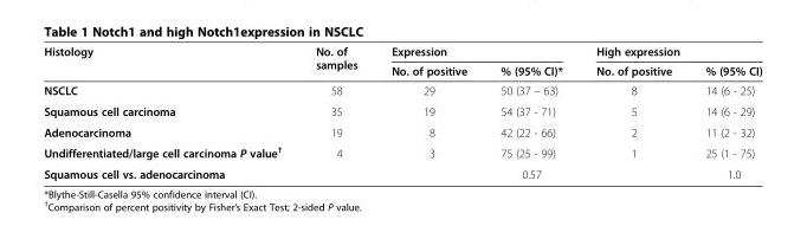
<table><thead><tr><td rowspan="2">Histology</td><td rowspan="2">No. of samples</td><td colspan="2">Expression</td><td colspan="2">High expression</td></tr><tr><td>No. of positive</td><td>% (95% CI)*</td><td>No. of positive</td><td>% (95% CI)</td></tr></thead><tbody><tr><td>NSCLC</td><td>58</td><td>29</td><td>50 (37 – 63)</td><td>8</td><td>14 (6 - 25)</td></tr><tr><td>Squamous cell carcinoma</td><td>35</td><td>19</td><td>54 (37 - 71)</td><td>5</td><td>14 (6 - 29)</td></tr><tr><td>Adenocarcinoma</td><td>19</td><td>8</td><td>42 (22 - 66)</td><td>2</td><td>11 (2 - 32)</td></tr><tr><td>Undifferentiated/large cell carcinoma P value<sup>†</sup></td><td>4</td><td>3</td><td>75 (25 - 99)</td><td>1</td><td>25 (1 - 75)</td></tr><tr><td>Squamous cell vs. adenocarcinoma</td><td></td><td></td><td>0.57</td><td></td><td>1.0</td></tr></tbody></table>